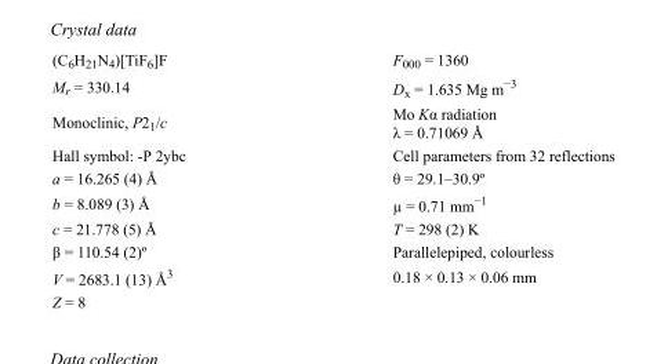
<table><tbody><tr><td>(C<sub>6</sub>H<sub>21</sub>N<sub>4</sub>)[TiF<sub>6</sub>]F</td><td>F000 = 1360</td></tr><tr><td>M<sub>r</sub> = 330.14</td><td>D<sub>x</sub> = 1.635 Mg m<sup>−3</sup></td></tr><tr><td>Monoclinic, P2<sub>1</sub>/c</td><td>Mo Kα radiation λ = 0.71069 Å</td></tr><tr><td>Hall symbol: -P 2ybc</td><td>Cell parameters from 32 reflections</td></tr><tr><td>a = 16.265 (4) Å</td><td>θ = 29.1–30.9º</td></tr><tr><td>b = 8.089 (3) Å</td><td>µ = 0.71 mm<sup>−1</sup></td></tr><tr><td>c = 21.778 (5) Å</td><td>T = 298 (2) K</td></tr><tr><td>β = 110.54 (2)º</td><td>Parallelepiped, colourless</td></tr><tr><td>V = 2683.1 (13) Å<sup>3</sup></td><td>0.18 × 0.13 × 0.06 mm</td></tr><tr><td>Z = 8</td><td></td></tr></tbody></table>